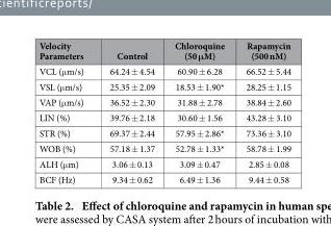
<table><thead><tr><td>Velocity Parameters</td><td>Control</td><td>Chloroquine (50 μM)</td><td>Rapamycin (500 nM)</td></tr></thead><tbody><tr><td>VCL (μ m/s)</td><td>64.24 ± 4.54</td><td>60.90 ± 6.28</td><td>66.52 ± 5.44</td></tr><tr><td>VSL (μ m/s)</td><td>25.35 ± 2.09</td><td>18.53 ± 1.90*</td><td>28.25 ± 1.15</td></tr><tr><td>VAP (μ m/s)</td><td>36.52 ± 2.30</td><td>31.88 ± 2.78</td><td>38.84 ± 2.60</td></tr><tr><td>LIN (%)</td><td>39.76 ± 2.18</td><td>30.60 ± 1.56</td><td>43.28 ± 3.10</td></tr><tr><td>STR (%)</td><td>69.37 ± 2.44</td><td>57.95 ± 2.86*</td><td>73.36 ± 3.10</td></tr><tr><td>WOB (%)</td><td>57.18 ± 1.37</td><td>52.78 ± 1.33*</td><td>58.78 ± 1.99</td></tr><tr><td>ALH (μ m)</td><td>3.06 ± 0.13</td><td>3.09 ± 0.47</td><td>2.85 ± 0.08</td></tr><tr><td>BCF (Hz)</td><td>9.34 ± 0.62</td><td>6.49 ± 1.36</td><td>9.44 ± 0.58</td></tr></tbody></table>